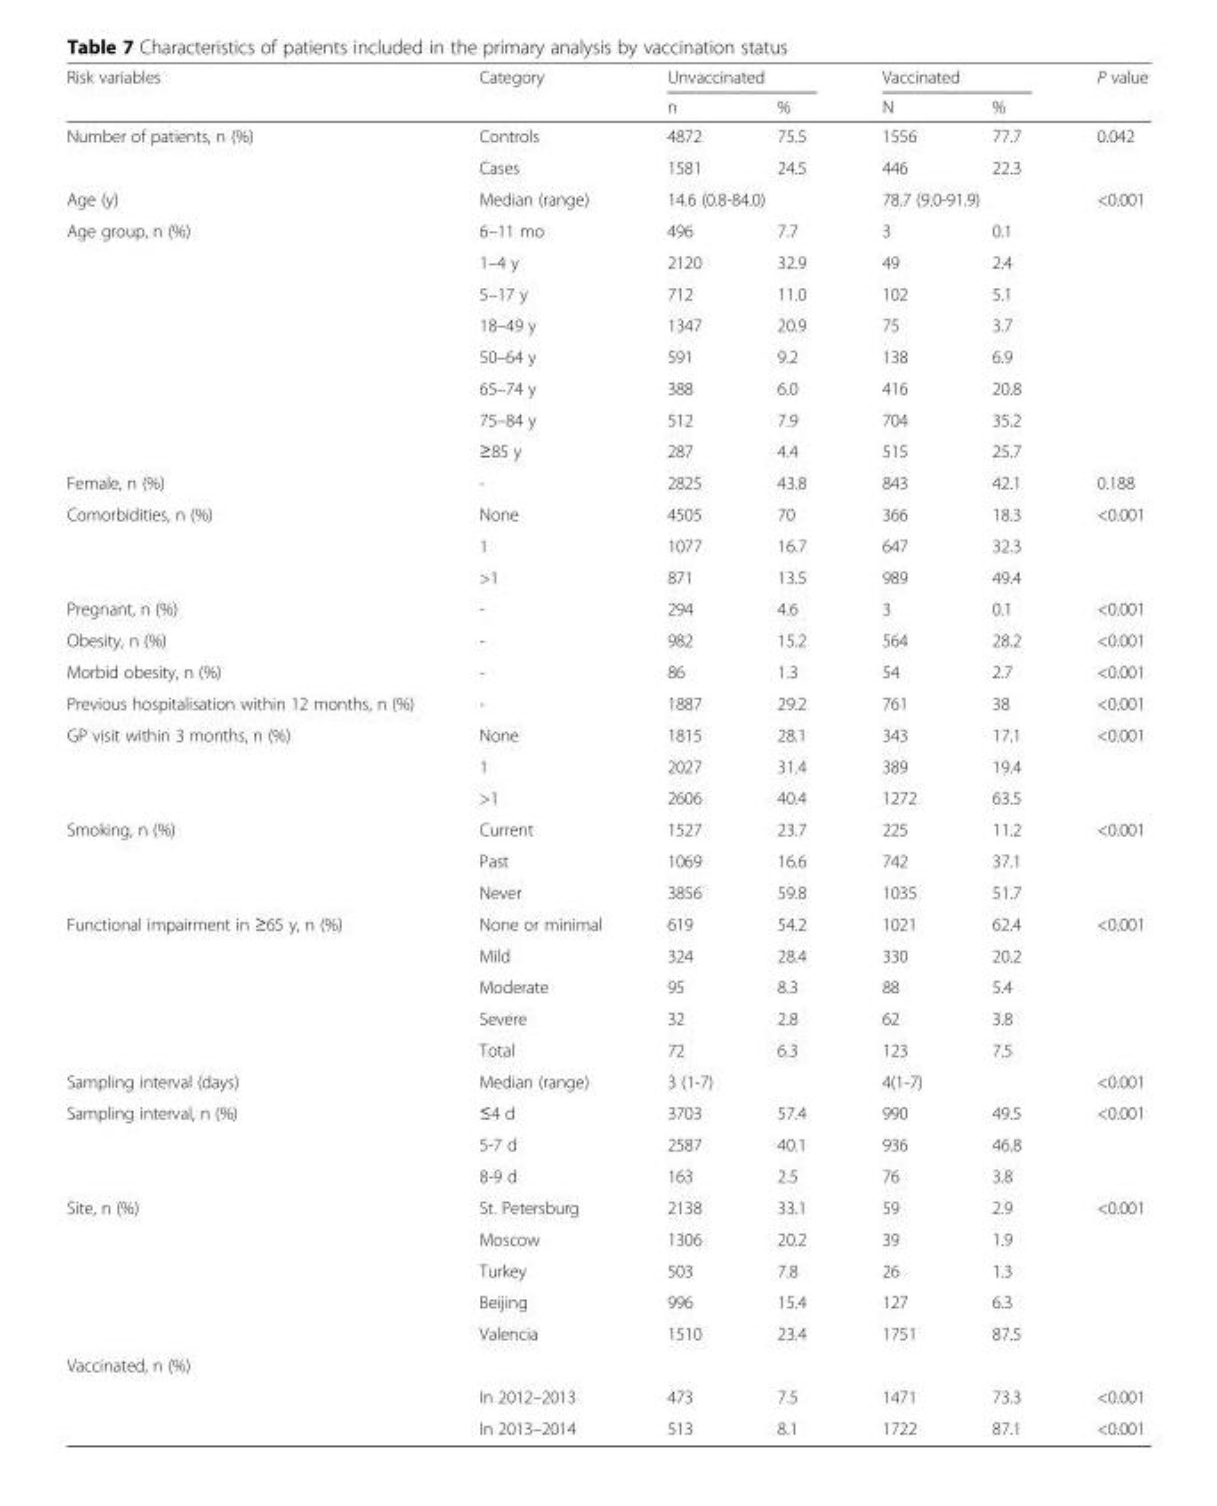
<table><thead><tr><td rowspan="2">Risk variables</td><td rowspan="2">Category</td><td colspan="2">Unvaccinated</td><td colspan="2">Vaccinated</td><td rowspan="2">P value</td></tr><tr><td>n</td><td>%</td><td>N</td><td>%</td></tr></thead><tbody><tr><td rowspan="2">Number of patients, n (%)</td><td>Controls</td><td>4872</td><td>75.5</td><td>1556</td><td>77.7</td><td>0.042</td></tr><tr><td>Cases</td><td>1581</td><td>24.5</td><td>446</td><td>22.3</td><td></td></tr><tr><td>Age (y)</td><td>Median (range)</td><td colspan="2">14.6 (0.8-84.0)</td><td colspan="2">78.7 (9.0-91.9)</td><td>&lt;0.001</td></tr><tr><td rowspan="8">Age group, n (%)</td><td>6–11 mo</td><td>496</td><td>7.7</td><td>3</td><td>0.1</td><td></td></tr><tr><td>1–4 y</td><td>2120</td><td>32.9</td><td>49</td><td>2.4</td><td></td></tr><tr><td>5–17 y</td><td>712</td><td>11.0</td><td>102</td><td>5.1</td><td></td></tr><tr><td>18–49 y</td><td>1347</td><td>20.9</td><td>75</td><td>3.7</td><td></td></tr><tr><td>50–64 y</td><td>591</td><td>9.2</td><td>138</td><td>6.9</td><td></td></tr><tr><td>65–74 y</td><td>388</td><td>6.0</td><td>416</td><td>20.8</td><td></td></tr><tr><td>75–84 y</td><td>512</td><td>7.9</td><td>704</td><td>35.2</td><td></td></tr><tr><td>≥85 y</td><td>287</td><td>4.4</td><td>515</td><td>25.7</td><td></td></tr><tr><td>Female, n (%)</td><td>-</td><td>2825</td><td>43.8</td><td>843</td><td>42.1</td><td>0.188</td></tr><tr><td rowspan="3">Comorbidities, n (%)</td><td>None</td><td>4505</td><td>70</td><td>366</td><td>18.3</td><td>&lt;0.001</td></tr><tr><td>1</td><td>1077</td><td>16.7</td><td>647</td><td>32.3</td><td></td></tr><tr><td>&gt;1</td><td>871</td><td>13.5</td><td>989</td><td>49.4</td><td></td></tr><tr><td>Pregnant, n (%)</td><td>-</td><td>294</td><td>4.6</td><td>3</td><td>0.1</td><td>&lt;0.001</td></tr><tr><td>Obesity, n (%)</td><td>-</td><td>982</td><td>15.2</td><td>564</td><td>28.2</td><td>&lt;0.001</td></tr><tr><td>Morbid obesity, n (%)</td><td>-</td><td>86</td><td>1.3</td><td>54</td><td>2.7</td><td>&lt;0.001</td></tr><tr><td>Previous hospitalisation within 12 months, n (%)</td><td>-</td><td>1887</td><td>29.2</td><td>761</td><td>38</td><td>&lt;0.001</td></tr><tr><td rowspan="3">GP visit within 3 months, n (%)</td><td>None</td><td>1815</td><td>28.1</td><td>343</td><td>17.1</td><td>&lt;0.001</td></tr><tr><td>1</td><td>2027</td><td>31.4</td><td>389</td><td>19.4</td><td></td></tr><tr><td>&gt;1</td><td>2606</td><td>40.4</td><td>1272</td><td>63.5</td><td></td></tr><tr><td rowspan="3">Smoking, n (%)</td><td>Current</td><td>1527</td><td>23.7</td><td>225</td><td>11.2</td><td>&lt;0.001</td></tr><tr><td>Past</td><td>1069</td><td>16.6</td><td>742</td><td>37.1</td><td></td></tr><tr><td>Never</td><td>3856</td><td>59.8</td><td>1035</td><td>51.7</td><td></td></tr><tr><td rowspan="5">Functional impairment in ≥65 y, n (%)</td><td>None or minimal</td><td>619</td><td>54.2</td><td>1021</td><td>62.4</td><td>&lt;0.001</td></tr><tr><td>Mild</td><td>324</td><td>28.4</td><td>330</td><td>20.2</td><td></td></tr><tr><td>Moderate</td><td>95</td><td>8.3</td><td>88</td><td>5.4</td><td></td></tr><tr><td>Severe</td><td>32</td><td>2.8</td><td>62</td><td>3.8</td><td></td></tr><tr><td>Total</td><td>72</td><td>6.3</td><td>123</td><td>7.5</td><td></td></tr><tr><td>Sampling interval (days)</td><td>Median (range)</td><td colspan="2">3 (1-7)</td><td colspan="2">4(1-7)</td><td>&lt;0.001</td></tr><tr><td rowspan="3">Sampling interval, n (%)</td><td>≤4 d</td><td>3703</td><td>57.4</td><td>990</td><td>49.5</td><td>&lt;0.001</td></tr><tr><td>5-7 d</td><td>2587</td><td>40.1</td><td>936</td><td>46.8</td><td></td></tr><tr><td>8-9 d</td><td>163</td><td>2.5</td><td>76</td><td>3.8</td><td></td></tr><tr><td rowspan="5">Site, n (%)</td><td>St. Petersburg</td><td>2138</td><td>33.1</td><td>59</td><td>2.9</td><td>&lt;0.001</td></tr><tr><td>Moscow</td><td>1306</td><td>20.2</td><td>39</td><td>1.9</td><td></td></tr><tr><td>Turkey</td><td>503</td><td>7.8</td><td>26</td><td>1.3</td><td></td></tr><tr><td>Beijing</td><td>996</td><td>15.4</td><td>127</td><td>6.3</td><td></td></tr><tr><td>Valencia</td><td>1510</td><td>23.4</td><td>1751</td><td>87.5</td><td></td></tr><tr><td colspan="7">Vaccinated, n (%)</td></tr><tr><td></td><td>In 2012–2013</td><td>473</td><td>7.5</td><td>1471</td><td>73.3</td><td>&lt;0.001</td></tr><tr><td></td><td>In 2013–2014</td><td>513</td><td>8.1</td><td>1722</td><td>87.1</td><td>&lt;0.001</td></tr></tbody></table>